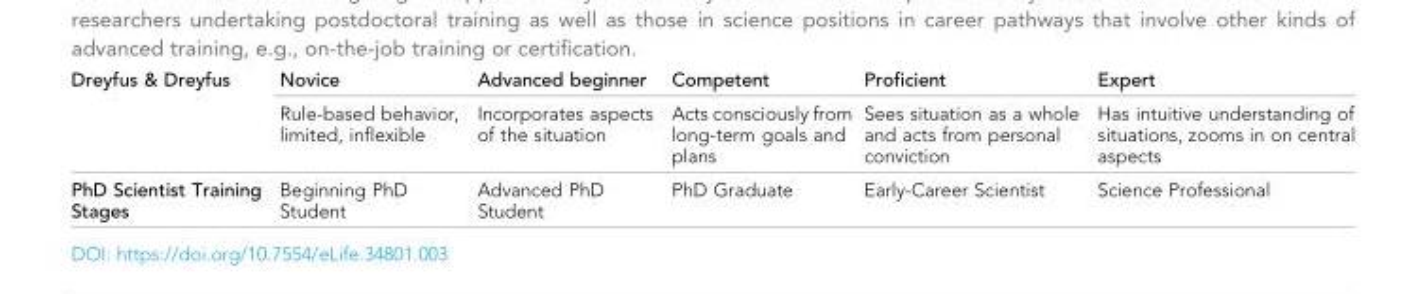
<table><tbody><tr><td rowspan="2">Dreyfus &amp; Dreyfus</td><td>Novice</td><td>Advanced beginner</td><td>Competent</td><td>Proficient</td><td>Expert</td></tr><tr><td>Rule-based behavior, limited, inflexible</td><td>Incorporates aspects of the situation</td><td>Acts consciously from long-term goals and plans</td><td>Sees situation as a whole and acts from personal conviction</td><td>Has intuitive understanding of situations, zooms in on central aspects</td></tr><tr><td>PhD Scientist Training Stages</td><td>Beginning PhD Student</td><td>Advanced PhD Student</td><td>PhD Graduate</td><td>Early-Career Scientist</td><td>Science Professional</td></tr></tbody></table>